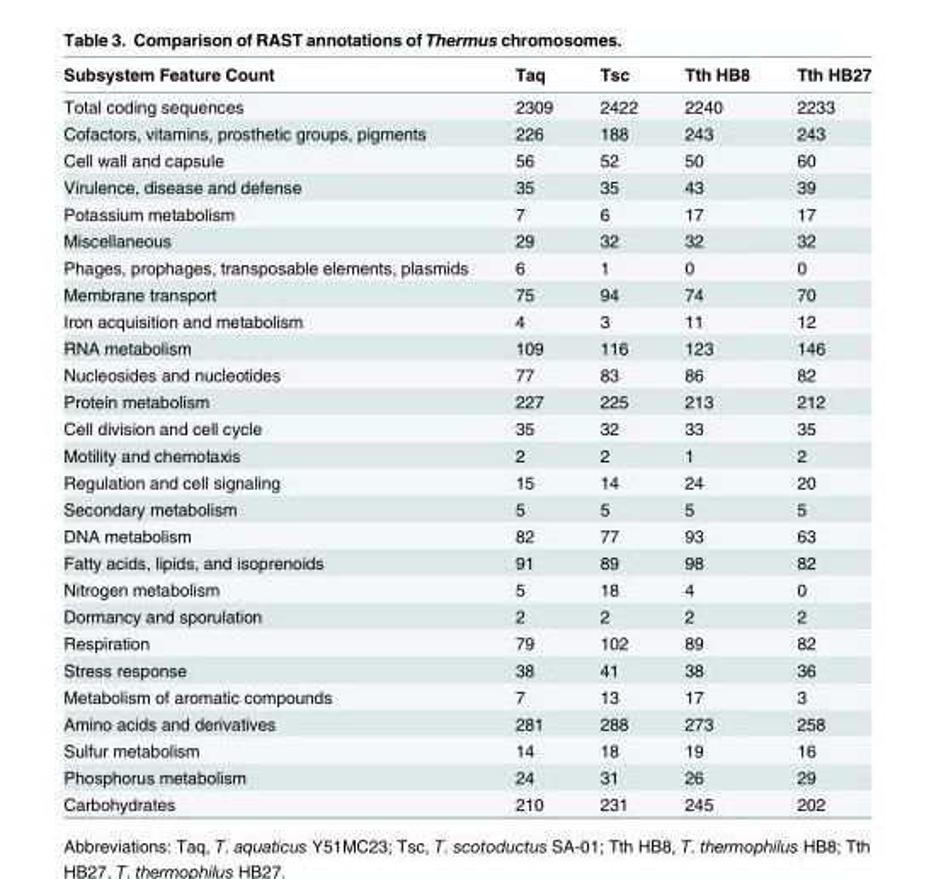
<table><thead><tr><td>Subsystem Feature Count</td><td>Taq</td><td>Tsc</td><td>Tth HB8</td><td>Tth HB27</td></tr></thead><tbody><tr><td>Total coding sequences</td><td>2309</td><td>2422</td><td>2240</td><td>2233</td></tr><tr><td>Cofactors, vitamins, prosthetic groups, pigments</td><td>226</td><td>188</td><td>243</td><td>243</td></tr><tr><td>Cell wall and capsule</td><td>56</td><td>52</td><td>50</td><td>60</td></tr><tr><td>Virulence, disease and defense</td><td>35</td><td>35</td><td>43</td><td>39</td></tr><tr><td>Potassium metabolism</td><td>7</td><td>6</td><td>17</td><td>17</td></tr><tr><td>Miscellaneous</td><td>29</td><td>32</td><td>32</td><td>32</td></tr><tr><td>Phages, prophages, transposable elements, plasmids</td><td>6</td><td>1</td><td>0</td><td>0</td></tr><tr><td>Membrane transport</td><td>75</td><td>94</td><td>74</td><td>70</td></tr><tr><td>Iron acquisition and metabolism</td><td>4</td><td>3</td><td>11</td><td>12</td></tr><tr><td>RNA metabolism</td><td>109</td><td>116</td><td>123</td><td>146</td></tr><tr><td>Nucleosides and nucleotides</td><td>77</td><td>83</td><td>86</td><td>82</td></tr><tr><td>Protein metabolism</td><td>227</td><td>225</td><td>213</td><td>212</td></tr><tr><td>Cell division and cell cycle</td><td>35</td><td>32</td><td>33</td><td>35</td></tr><tr><td>Motility and chemotaxis</td><td>2</td><td>2</td><td>1</td><td>2</td></tr><tr><td>Regulation and cell signaling</td><td>15</td><td>14</td><td>24</td><td>20</td></tr><tr><td>Secondary metabolism</td><td>5</td><td>5</td><td>5</td><td>5</td></tr><tr><td>DNA metabolism</td><td>82</td><td>77</td><td>93</td><td>63</td></tr><tr><td>Fatty acids, lipids, and isoprenoids</td><td>91</td><td>89</td><td>98</td><td>82</td></tr><tr><td>Nitrogen metabolism</td><td>5</td><td>18</td><td>4</td><td>0</td></tr><tr><td>Dormancy and sporulation</td><td>2</td><td>2</td><td>2</td><td>2</td></tr><tr><td>Respiration</td><td>79</td><td>102</td><td>89</td><td>82</td></tr><tr><td>Stress response</td><td>38</td><td>41</td><td>38</td><td>36</td></tr><tr><td>Metabolism of aromatic compounds</td><td>7</td><td>13</td><td>17</td><td>3</td></tr><tr><td>Amino acids and derivatives</td><td>281</td><td>288</td><td>273</td><td>258</td></tr><tr><td>Sulfur metabolism</td><td>14</td><td>18</td><td>19</td><td>16</td></tr><tr><td>Phosphorus metabolism</td><td>24</td><td>31</td><td>26</td><td>29</td></tr><tr><td>Carbohydrates</td><td>210</td><td>231</td><td>245</td><td>202</td></tr></tbody></table>